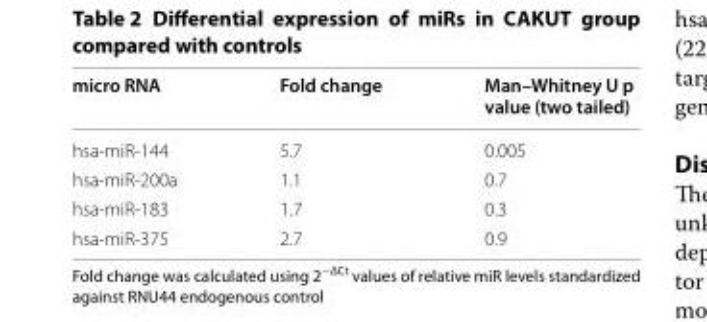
<table><thead><tr><td>micro RNA</td><td>Fold change</td><td>Man–Whitney U p value (two tailed)</td></tr></thead><tbody><tr><td>hsa-miR-144</td><td>5.7</td><td>0.005</td></tr><tr><td>hsa-miR-200a</td><td>1.1</td><td>0.7</td></tr><tr><td>hsa-miR-183</td><td>1.7</td><td>0.3</td></tr><tr><td>hsa-miR-375</td><td>2.7</td><td>0.9</td></tr></tbody></table>